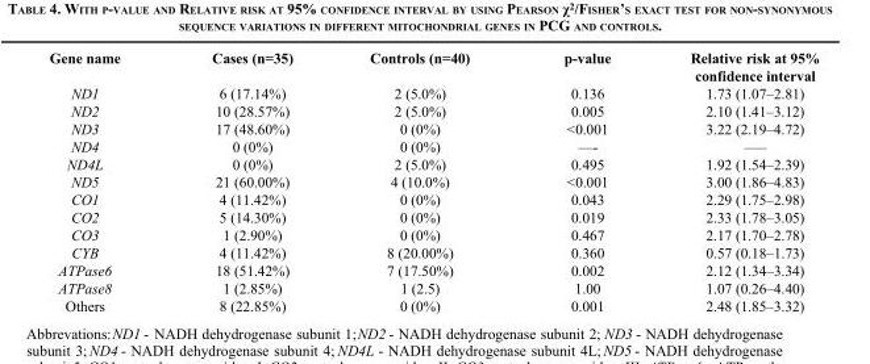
<table><thead><tr><td>Gene name</td><td>Cases (n=35)</td><td>Controls (n=40)</td><td>p-value</td><td>Relative risk at 95% confidence interval</td></tr></thead><tbody><tr><td>ND1</td><td>6 (17.14%)</td><td>2 (5.0%)</td><td>0.136</td><td>1.73 (1.07–2.81)</td></tr><tr><td>ND2</td><td>10 (28.57%)</td><td>2 (5.0%)</td><td>0.005</td><td>2.10 (1.41–3.12)</td></tr><tr><td>ND3</td><td>17 (48.60%)</td><td>0 (0%)</td><td>&lt;0.001</td><td>3.22 (2.19–4.72)</td></tr><tr><td>ND4</td><td>0 (0%)</td><td>0 (0%)</td><td>—-</td><td>—–</td></tr><tr><td>ND4L</td><td>0 (0%)</td><td>2 (5.0%)</td><td>0.495</td><td>1.92 (1.54–2.39)</td></tr><tr><td>ND5</td><td>21 (60.00%)</td><td>4 (10.0%)</td><td>&lt;0.001</td><td>3.00 (1.86–4.83)</td></tr><tr><td>CO1</td><td>4 (11.42%)</td><td>0 (0%)</td><td>0.043</td><td>2.29 (1.75–2.98)</td></tr><tr><td>CO2</td><td>5 (14.30%)</td><td>0 (0%)</td><td>0.019</td><td>2.33 (1.78–3.05)</td></tr><tr><td>CO3</td><td>1 (2.90%)</td><td>0 (0%)</td><td>0.467</td><td>2.17 (1.70–2.78)</td></tr><tr><td>CYB</td><td>4 (11.42%)</td><td>8 (20.00%)</td><td>0.360</td><td>0.57 (0.18–1.73)</td></tr><tr><td>ATPase6</td><td>18 (51.42%)</td><td>7 (17.50%)</td><td>0.002</td><td>2.12 (1.34–3.34)</td></tr><tr><td>ATPase8</td><td>1 (2.85%)</td><td>1 (2.5)</td><td>1.00</td><td>1.07 (0.26–4.40)</td></tr><tr><td>Others</td><td>8 (22.85%)</td><td>0 (0%)</td><td>0.001</td><td>2.48 (1.85–3.32)</td></tr></tbody></table>